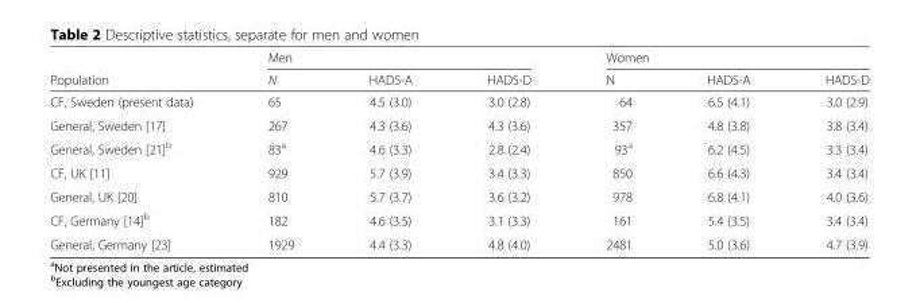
<table><thead><tr><td rowspan="2">Population</td><td colspan="3">Men</td><td colspan="3">Women</td></tr><tr><td>N</td><td>HADS-A</td><td>HADS-D</td><td>N</td><td>HADS-A</td><td>HADS-D</td></tr></thead><tbody><tr><td>CF, Sweden (present data)</td><td>65</td><td>4.5 (3.0)</td><td>3.0 (2.8)</td><td>64</td><td>6.5 (4.1)</td><td>3.0 (2.9)</td></tr><tr><td>General, Sweden [17]</td><td>267</td><td>4.3 (3.6)</td><td>4.3 (3.6)</td><td>357</td><td>4.8 (3.8)</td><td>3.8 (3.4)</td></tr><tr><td>General, Sweden [21]<sup>b</sup></td><td>83<sup>a</sup></td><td>4.6 (3.3)</td><td>2.8 (2.4)</td><td>93<sup>a</sup></td><td>6.2 (4.5)</td><td>3.3 (3.4)</td></tr><tr><td>CF, UK [11]</td><td>929</td><td>5.7 (3.9)</td><td>3.4 (3.3)</td><td>850</td><td>6.6 (4.3)</td><td>3.4 (3.4)</td></tr><tr><td>General, UK [20]</td><td>810</td><td>5.7 (3.7)</td><td>3.6 (3.2)</td><td>978</td><td>6.8 (4.1)</td><td>4.0 (3.6)</td></tr><tr><td>CF, Germany [14]<sup>b</sup></td><td>182</td><td>4.6 (3.5)</td><td>3.1 (3.3)</td><td>161</td><td>5.4 (3.5)</td><td>3.4 (3.4)</td></tr><tr><td>General, Germany [23]</td><td>1929</td><td>4.4 (3.3)</td><td>4.8 (4.0)</td><td>2481</td><td>5.0 (3.6)</td><td>4.7 (3.9)</td></tr></tbody></table>